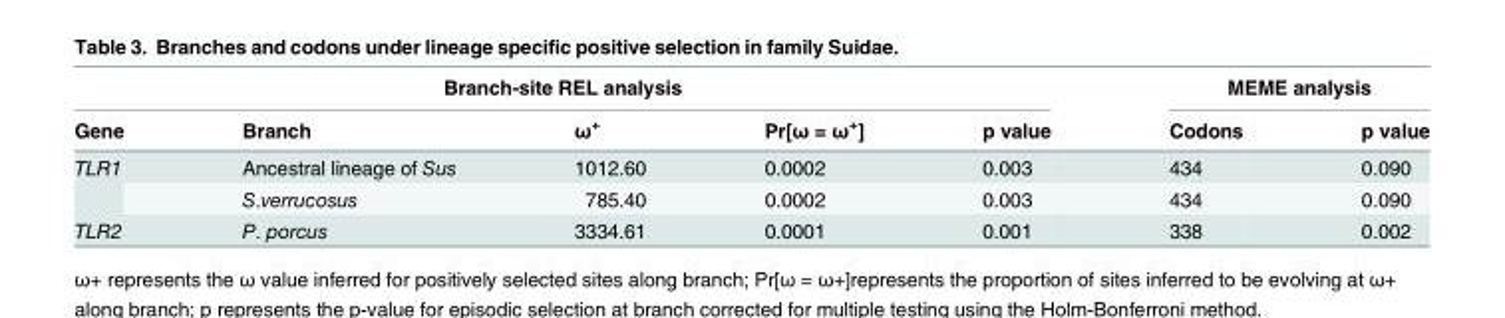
<table><thead><tr><td colspan="5">Branch-site REL analysis</td><td colspan="2">MEME analysis</td></tr><tr><td>Gene</td><td>Branch</td><td>ω<sup>+</sup></td><td>Pr[ω = ω<sup>+</sup>]</td><td>p value</td><td>Codons</td><td>p value</td></tr></thead><tbody><tr><td rowspan="2">TLR1</td><td>Ancestral lineage of Sus</td><td>1012.60</td><td>0.0002</td><td>0.003</td><td>434</td><td>0.090</td></tr><tr><td>S.verrucosus</td><td>785.40</td><td>0.0002</td><td>0.003</td><td>434</td><td>0.090</td></tr><tr><td>TLR2</td><td>P. porcus</td><td>3334.61</td><td>0.0001</td><td>0.001</td><td>338</td><td>0.002</td></tr></tbody></table>